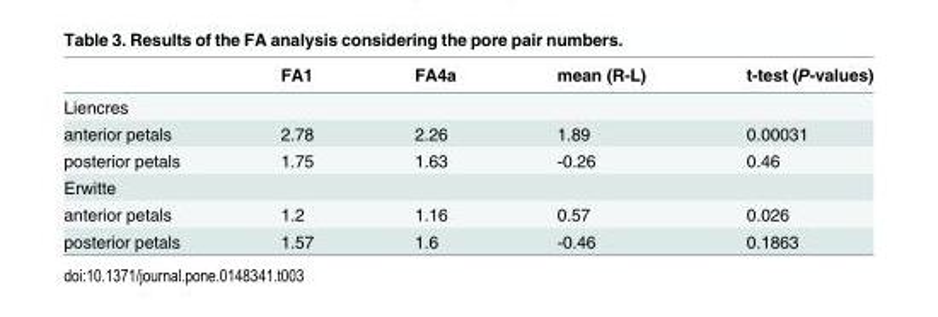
<table><thead><tr><td></td><td>FA1</td><td>FA4a</td><td>mean (R-L)</td><td>t-test (P-values)</td></tr></thead><tbody><tr><td colspan="5">Liencres</td></tr><tr><td>anterior petals</td><td>2.78</td><td>2.26</td><td>1.89</td><td>0.00031</td></tr><tr><td>posterior petals</td><td>1.75</td><td>1.63</td><td>-0.26</td><td>0.46</td></tr><tr><td colspan="5">Erwitte</td></tr><tr><td>anterior petals</td><td>1.2</td><td>1.16</td><td>0.57</td><td>0.026</td></tr><tr><td>posterior petals</td><td>1.57</td><td>1.6</td><td>-0.46</td><td>0.1863</td></tr></tbody></table>